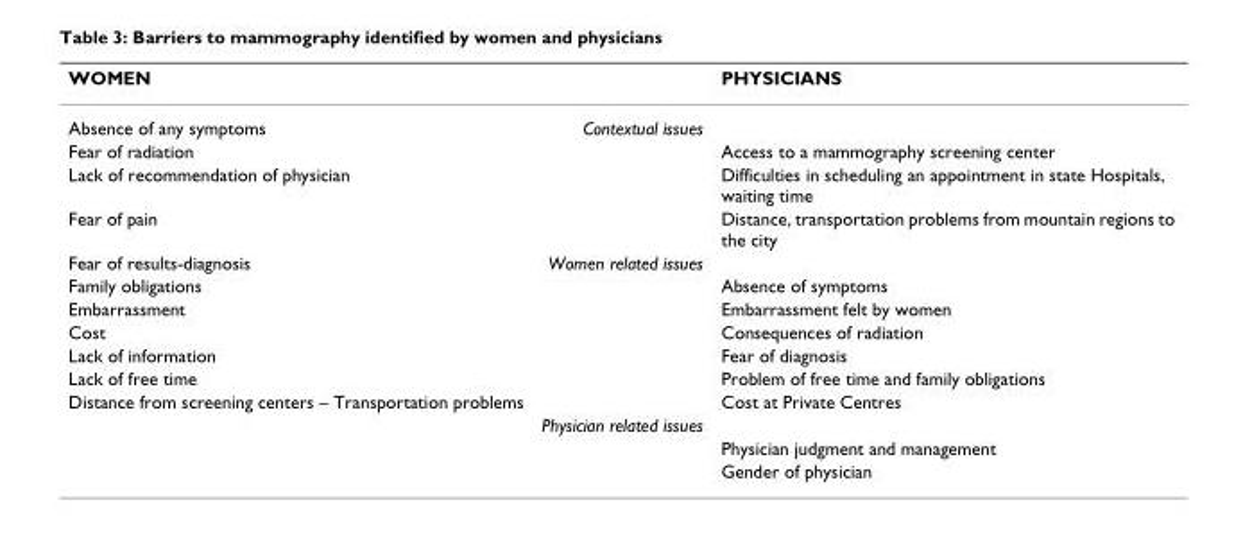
<table><thead><tr><td>WOMEN</td><td></td><td>PHYSICIANS</td></tr></thead><tbody><tr><td>Absence of any symptoms</td><td>Contextual issues</td><td></td></tr><tr><td>Fear of radiation</td><td></td><td>Access to a mammography screening center</td></tr><tr><td>Lack of recommendation of physician</td><td></td><td>Difficulties in scheduling an appointment in state Hospitals, waiting time</td></tr><tr><td>Fear of pain</td><td></td><td>Distance, transportation problems from mountain regions to the city</td></tr><tr><td>Fear of results-diagnosis</td><td>Women related issues</td><td></td></tr><tr><td>Family obligations</td><td></td><td>Absence of symptoms</td></tr><tr><td>Embarrassment</td><td></td><td>Embarrassment felt by women</td></tr><tr><td>Cost</td><td></td><td>Consequences of radiation</td></tr><tr><td>Lack of information</td><td></td><td>Fear of diagnosis</td></tr><tr><td>Lack of free time</td><td></td><td>Problem of free time and family obligations</td></tr><tr><td rowspan="4">Distance from screening centers – Transportation problems</td><td></td><td>Cost at Private Centres</td></tr><tr><td>Physician related issues</td><td></td></tr><tr><td></td><td>Physician judgment and management</td></tr><tr><td></td><td>Gender of physician</td></tr></tbody></table>